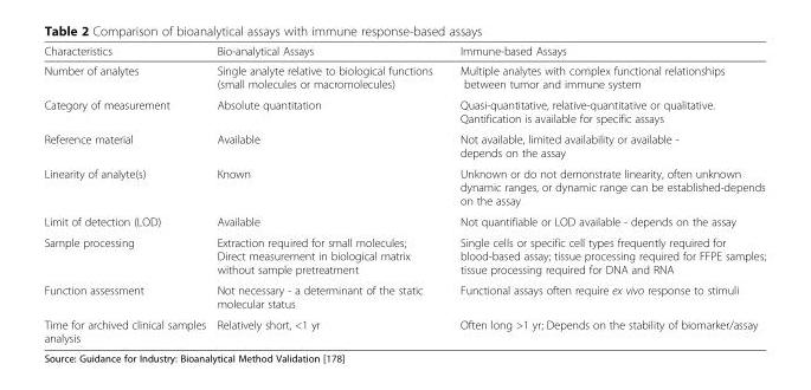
<table><thead><tr><td>Characteristics</td><td>Bio-analytical Assays</td><td>Immune-based Assays</td></tr></thead><tbody><tr><td>Number of analytes</td><td>Single analyte relative to biological functions (small molecules or macromolecules)</td><td>Multiple analytes with complex functional relationships between tumor and immune system</td></tr><tr><td>Category of measurement</td><td>Absolute quantitation</td><td>Quasi-quantitative, relative-quantitative or qualitative. Qantification is available for specific assays</td></tr><tr><td>Reference material</td><td>Available</td><td>Not available, limited availability or available - depends on the assay</td></tr><tr><td>Linearity of analyte(s)</td><td>Known</td><td>Unknown or do not demonstrate linearity, often unknown dynamic ranges, or dynamic range can be established-depends on the assay</td></tr><tr><td>Limit of detection (LOD)</td><td>Available</td><td>Not quantifiable or LOD available - depends on the assay</td></tr><tr><td>Sample processing</td><td>Extraction required for small molecules; Direct measurement in biological matrix without sample pretreatment</td><td>Single cells or specific cell types frequently required for blood-based assay; tissue processing required for FFPE samples; tissue processing required for DNA and RNA</td></tr><tr><td>Function assessment</td><td>Not necessary - a determinant of the static molecular status</td><td>Functional assays often require ex vivo response to stimuli</td></tr><tr><td>Time for archived clinical samples analysis</td><td>Relatively short, &lt;1 yr</td><td>Often long &gt;1 yr; Depends on the stability of biomarker/assay</td></tr></tbody></table>